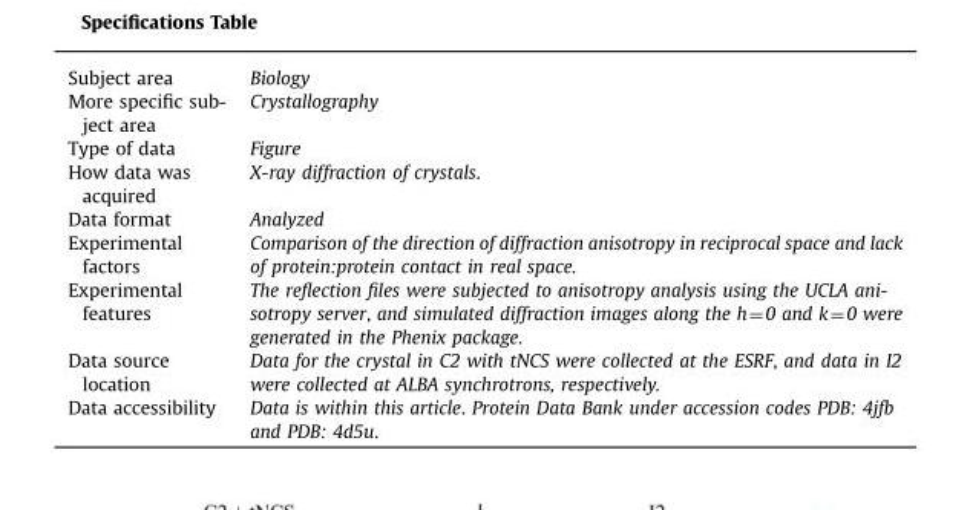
<table><tbody><tr><td>Subject area</td><td>Biology</td></tr><tr><td>More specific sub- ject area</td><td>Crystallography</td></tr><tr><td>Type of data</td><td>Figure</td></tr><tr><td>How data was acquired</td><td>X-ray diffraction of crystals.</td></tr><tr><td>Data format</td><td>Analyzed</td></tr><tr><td>Experimental factors</td><td>Comparison of the direction of diffraction anisotropy in reciprocal space and lack of protein:protein contact in real space.</td></tr><tr><td>Experimental features</td><td>The reflection files were subjected to anisotropy analysis using the UCLA ani- sotropy server, and simulated diffraction images along the h¼0 and k¼0 were generated in the Phenix package.</td></tr><tr><td>Data source location</td><td>Data for the crystal in C2 with tNCS were collected at the ESRF, and data in I2 were collected at ALBA synchrotrons, respectively.</td></tr><tr><td>Data accessibility</td><td>Data is within this article. Protein Data Bank under accession codes PDB: 4jfb and PDB: 4d5u.</td></tr></tbody></table>